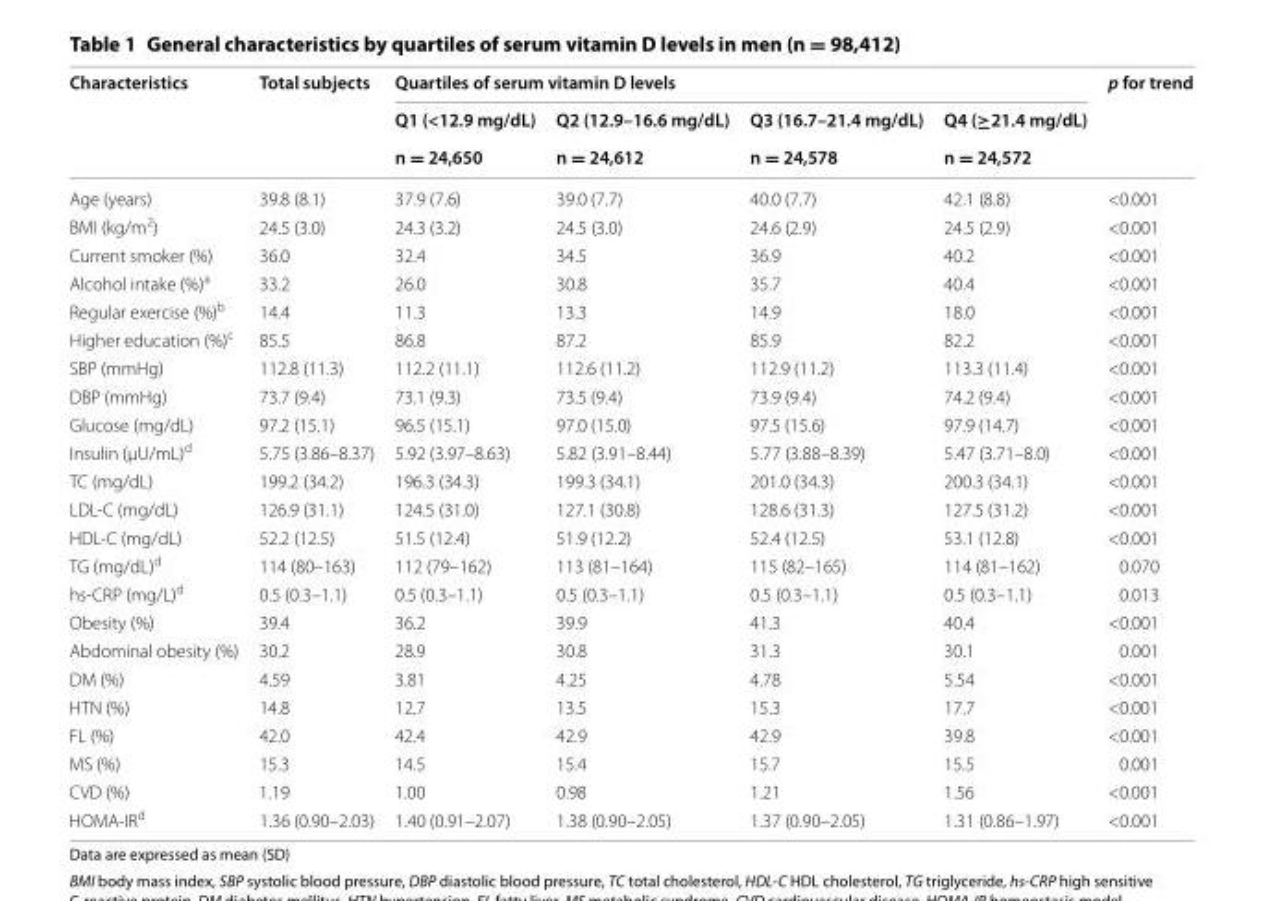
<table><thead><tr><td rowspan="3">Characteristics</td><td rowspan="3">Total subjects</td><td colspan="4">Quartiles of serum vitamin D levels</td><td rowspan="3">p for trend</td></tr><tr><td rowspan="2">Q1 (&lt;12.9 mg/dL) n = 24,650</td><td rowspan="2">Q2 (12.9–16.6 mg/dL) n = 24,612</td><td rowspan="2">Q3 (16.7–21.4 mg/dL) n = 24,578</td><td rowspan="2">Q4 (≥21.4 mg/dL) n = 24,572</td></tr><tr></tr></thead><tbody><tr><td>Age (years)</td><td>39.8 (8.1)</td><td>37.9 (7.6)</td><td>39.0 (7.7)</td><td>40.0 (7.7)</td><td>42.1 (8.8)</td><td>&lt;0.001</td></tr><tr><td>BMI (kg/m<sup>2</sup>)</td><td>24.5 (3.0)</td><td>24.3 (3.2)</td><td>24.5 (3.0)</td><td>24.6 (2.9)</td><td>24.5 (2.9)</td><td>&lt;0.001</td></tr><tr><td>Current smoker (%)</td><td>36.0</td><td>32.4</td><td>34.5</td><td>36.9</td><td>40.2</td><td>&lt;0.001</td></tr><tr><td>Alcohol intake (%)<sup>a</sup></td><td>33.2</td><td>26.0</td><td>30.8</td><td>35.7</td><td>40.4</td><td>&lt;0.001</td></tr><tr><td>Regular exercise (%)<sup>b</sup></td><td>14.4</td><td>11.3</td><td>13.3</td><td>14.9</td><td>18.0</td><td>&lt;0.001</td></tr><tr><td>Higher education (%)<sup>c</sup></td><td>85.5</td><td>86.8</td><td>87.2</td><td>85.9</td><td>82.2</td><td>&lt;0.001</td></tr><tr><td>SBP (mmHg)</td><td>112.8 (11.3)</td><td>112.2 (11.1)</td><td>112.6 (11.2)</td><td>112.9 (11.2)</td><td>113.3 (11.4)</td><td>&lt;0.001</td></tr><tr><td>DBP (mmHg)</td><td>73.7 (9.4)</td><td>73.1 (9.3)</td><td>73.5 (9.4)</td><td>73.9 (9.4)</td><td>74.2 (9.4)</td><td>&lt;0.001</td></tr><tr><td>Glucose (mg/dL)</td><td>97.2 (15.1)</td><td>96.5 (15.1)</td><td>97.0 (15.0)</td><td>97.5 (15.6)</td><td>97.9 (14.7)</td><td>&lt;0.001</td></tr><tr><td>Insulin (μU/mL)<sup>d</sup></td><td>5.75 (3.86–8.37)</td><td>5.92 (3.97–8.63)</td><td>5.82 (3.91–8.44)</td><td>5.77 (3.88–8.39)</td><td>5.47 (3.71–8.0)</td><td>&lt;0.001</td></tr><tr><td>TC (mg/dL)</td><td>199.2 (34.2)</td><td>196.3 (34.3)</td><td>199.3 (34.1)</td><td>201.0 (34.3)</td><td>200.3 (34.1)</td><td>&lt;0.001</td></tr><tr><td>LDL‑C (mg/dL)</td><td>126.9 (31.1)</td><td>124.5 (31.0)</td><td>127.1 (30.8)</td><td>128.6 (31.3)</td><td>127.5 (31.2)</td><td>&lt;0.001</td></tr><tr><td>HDL‑C (mg/dL)</td><td>52.2 (12.5)</td><td>51.5 (12.4)</td><td>51.9 (12.2)</td><td>52.4 (12.5)</td><td>53.1 (12.8)</td><td>&lt;0.001</td></tr><tr><td>TG (mg/dL)<sup>d</sup></td><td>114 (80–163)</td><td>112 (79–162)</td><td>113 (81–164)</td><td>115 (82–165)</td><td>114 (81–162)</td><td>0.070</td></tr><tr><td>hs‑CRP (mg/L)<sup>d</sup></td><td>0.5 (0.3–1.1)</td><td>0.5 (0.3–1.1)</td><td>0.5 (0.3–1.1)</td><td>0.5 (0.3–1.1)</td><td>0.5 (0.3–1.1)</td><td>0.013</td></tr><tr><td>Obesity (%)</td><td>39.4</td><td>36.2</td><td>39.9</td><td>41.3</td><td>40.4</td><td>&lt;0.001</td></tr><tr><td>Abdominal obesity (%)</td><td>30.2</td><td>28.9</td><td>30.8</td><td>31.3</td><td>30.1</td><td>0.001</td></tr><tr><td>DM (%)</td><td>4.59</td><td>3.81</td><td>4.25</td><td>4.78</td><td>5.54</td><td>&lt;0.001</td></tr><tr><td>HTN (%)</td><td>14.8</td><td>12.7</td><td>13.5</td><td>15.3</td><td>17.7</td><td>&lt;0.001</td></tr><tr><td>FL (%)</td><td>42.0</td><td>42.4</td><td>42.9</td><td>42.9</td><td>39.8</td><td>&lt;0.001</td></tr><tr><td>MS (%)</td><td>15.3</td><td>14.5</td><td>15.4</td><td>15.7</td><td>15.5</td><td>0.001</td></tr><tr><td>CVD (%)</td><td>1.19</td><td>1.00</td><td>0.98</td><td>1.21</td><td>1.56</td><td>&lt;0.001</td></tr><tr><td>HOMA‑IR<sup>d</sup></td><td>1.36 (0.90–2.03)</td><td>1.40 (0.91–2.07)</td><td>1.38 (0.90–2.05)</td><td>1.37 (0.90–2.05)</td><td>1.31 (0.86–1.97)</td><td>&lt;0.001</td></tr></tbody></table>